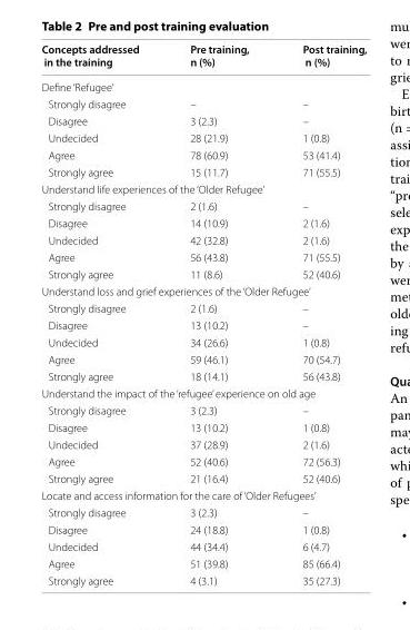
<table><thead><tr><td>Concepts addressed in the training</td><td>Pre training, n (%)</td><td>Post training, n (%)</td></tr></thead><tbody><tr><td colspan="3">Define ‘Refugee’</td></tr><tr><td>Strongly disagree</td><td>–</td><td>–</td></tr><tr><td>Disagree</td><td>3 (2.3)</td><td>–</td></tr><tr><td>Undecided</td><td>28 (21.9)</td><td>1 (0.8)</td></tr><tr><td>Agree</td><td>78 (60.9)</td><td>53 (41.4)</td></tr><tr><td>Strongly agree</td><td>15 (11.7)</td><td>71 (55.5)</td></tr><tr><td colspan="3">Understand life experiences of the ‘Older Refugee’</td></tr><tr><td>Strongly disagree</td><td>2 (1.6)</td><td>–</td></tr><tr><td>Disagree</td><td>14 (10.9)</td><td>2 (1.6)</td></tr><tr><td>Undecided</td><td>42 (32.8)</td><td>2 (1.6)</td></tr><tr><td>Agree</td><td>56 (43.8)</td><td>71 (55.5)</td></tr><tr><td>Strongly agree</td><td>11 (8.6)</td><td>52 (40.6)</td></tr><tr><td colspan="3">Understand loss and grief experiences of the ‘Older Refugee’</td></tr><tr><td>Strongly disagree</td><td>2 (1.6)</td><td>–</td></tr><tr><td>Disagree</td><td>13 (10.2)</td><td>–</td></tr><tr><td>Undecided</td><td>34 (26.6)</td><td>1 (0.8)</td></tr><tr><td>Agree</td><td>59 (46.1)</td><td>70 (54.7)</td></tr><tr><td>Strongly agree</td><td>18 (14.1)</td><td>56 (43.8)</td></tr><tr><td colspan="3">Understand the impact of the ‘refugee’ experience on old age</td></tr><tr><td>Strongly disagree</td><td>3 (2.3)</td><td>–</td></tr><tr><td>Disagree</td><td>13 (10.2)</td><td>1 (0.8)</td></tr><tr><td>Undecided</td><td>37 (28.9)</td><td>2 (1.6)</td></tr><tr><td>Agree</td><td>52 (40.6)</td><td>72 (56.3)</td></tr><tr><td>Strongly agree</td><td>21 (16.4)</td><td>52 (40.6)</td></tr><tr><td colspan="3">Locate and access information for the care of ‘Older Refugees’</td></tr><tr><td>Strongly disagree</td><td>3 (2.3)</td><td>–</td></tr><tr><td>Disagree</td><td>24 (18.8)</td><td>1 (0.8)</td></tr><tr><td>Undecided</td><td>44 (34.4)</td><td>6 (4.7)</td></tr><tr><td>Agree</td><td>51 (39.8)</td><td>85 (66.4)</td></tr><tr><td>Strongly agree</td><td>4 (3.1)</td><td>35 (27.3)</td></tr></tbody></table>